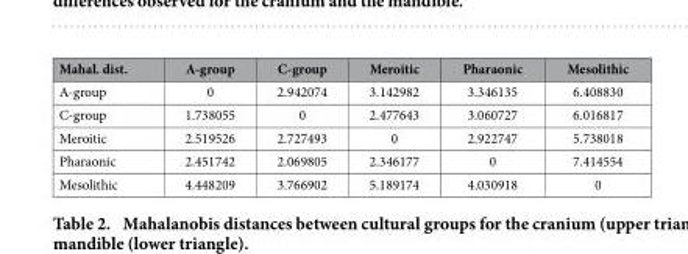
<table><thead><tr><td>Mahal. dist.</td><td>A-group</td><td>C-group</td><td>Meroitic</td><td>Pharaonic</td><td>Mesolithic</td></tr></thead><tbody><tr><td>A-group</td><td>0</td><td>2.942074</td><td>3.142982</td><td>3.346135</td><td>6.408830</td></tr><tr><td>C-group</td><td>1.738055</td><td>0</td><td>2.477643</td><td>3.060727</td><td>6.016817</td></tr><tr><td>Meroitic</td><td>2.519526</td><td>2.727493</td><td>0</td><td>2.922747</td><td>5.738018</td></tr><tr><td>Pharaonic</td><td>2.451742</td><td>2.069805</td><td>2.346177</td><td>0</td><td>7.414554</td></tr><tr><td>Mesolithic</td><td>4.448209</td><td>3.766902</td><td>5.189174</td><td>4.030918</td><td>0</td></tr></tbody></table>